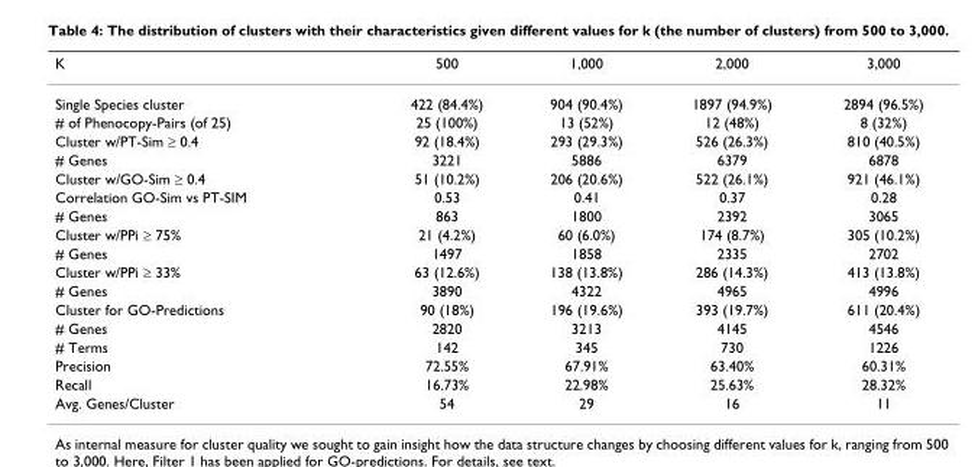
<table><thead><tr><td>K</td><td>500</td><td>1,000</td><td>2,000</td><td>3,000</td></tr></thead><tbody><tr><td>Single Species cluster</td><td>422 (84.4%)</td><td>904 (90.4%)</td><td>1897 (94.9%)</td><td>2894 (96.5%)</td></tr><tr><td># of Phenocopy-Pairs (of 25)</td><td>25 (100%)</td><td>13 (52%)</td><td>12 (48%)</td><td>8 (32%)</td></tr><tr><td>Cluster w/PT-Sim ≥ 0.4</td><td>92 (18.4%)</td><td>293 (29.3%)</td><td>526 (26.3%)</td><td>810 (40.5%)</td></tr><tr><td># Genes</td><td>3221</td><td>5886</td><td>6379</td><td>6878</td></tr><tr><td>Cluster w/GO-Sim ≥ 0.4</td><td>51 (10.2%)</td><td>206 (20.6%)</td><td>522 (26.1%)</td><td>921 (46.1%)</td></tr><tr><td>Correlation GO-Sim vs PT-SIM</td><td>0.53</td><td>0.41</td><td>0.37</td><td>0.28</td></tr><tr><td># Genes</td><td>863</td><td>1800</td><td>2392</td><td>3065</td></tr><tr><td>Cluster w/PPi ≥ 75%</td><td>21 (4.2%)</td><td>60 (6.0%)</td><td>174 (8.7%)</td><td>305 (10.2%)</td></tr><tr><td># Genes</td><td>1497</td><td>1858</td><td>2335</td><td>2702</td></tr><tr><td>Cluster w/PPi ≥ 33%</td><td>63 (12.6%)</td><td>138 (13.8%)</td><td>286 (14.3%)</td><td>413 (13.8%)</td></tr><tr><td># Genes</td><td>3890</td><td>4322</td><td>4965</td><td>4996</td></tr><tr><td>Cluster for GO-Predictions</td><td>90 (18%)</td><td>196 (19.6%)</td><td>393 (19.7%)</td><td>611 (20.4%)</td></tr><tr><td># Genes</td><td>2820</td><td>3213</td><td>4145</td><td>4546</td></tr><tr><td># Terms</td><td>142</td><td>345</td><td>730</td><td>1226</td></tr><tr><td>Precision</td><td>72.55%</td><td>67.91%</td><td>63.40%</td><td>60.31%</td></tr><tr><td>Recall</td><td>16.73%</td><td>22.98%</td><td>25.63%</td><td>28.32%</td></tr><tr><td>Avg. Genes/Cluster</td><td>54</td><td>29</td><td>16</td><td>11</td></tr></tbody></table>